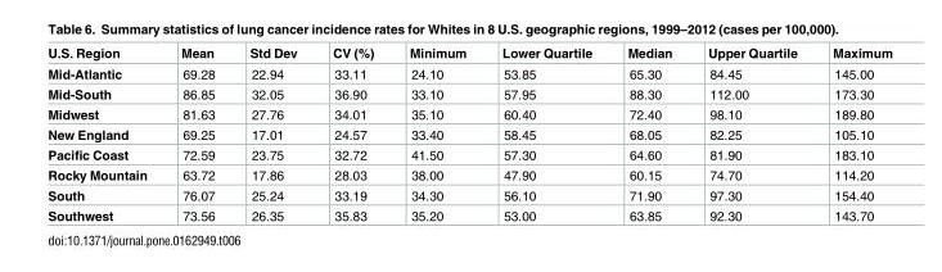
<table><thead><tr><td>U.S. Region</td><td>Mean</td><td>Std Dev</td><td>CV (%)</td><td>Minimum</td><td>Lower Quartile</td><td>Median</td><td>Upper Quartile</td><td>Maximum</td></tr></thead><tbody><tr><td>Mid-Atlantic</td><td>69.28</td><td>22.94</td><td>33.11</td><td>24.10</td><td>53.85</td><td>65.30</td><td>84.45</td><td>145.00</td></tr><tr><td>Mid-South</td><td>86.85</td><td>32.05</td><td>36.90</td><td>33.10</td><td>57.95</td><td>88.30</td><td>112.00</td><td>173.30</td></tr><tr><td>Midwest</td><td>81.63</td><td>27.76</td><td>34.01</td><td>35.10</td><td>60.40</td><td>72.40</td><td>98.10</td><td>189.80</td></tr><tr><td>New England</td><td>69.25</td><td>17.01</td><td>24.57</td><td>33.40</td><td>58.45</td><td>68.05</td><td>82.25</td><td>105.10</td></tr><tr><td>Pacific Coast</td><td>72.59</td><td>23.75</td><td>32.72</td><td>41.50</td><td>57.30</td><td>64.60</td><td>81.90</td><td>183.10</td></tr><tr><td>Rocky Mountain</td><td>63.72</td><td>17.86</td><td>28.03</td><td>38.00</td><td>47.90</td><td>60.15</td><td>74.70</td><td>114.20</td></tr><tr><td>South</td><td>76.07</td><td>25.24</td><td>33.19</td><td>34.30</td><td>56.10</td><td>71.90</td><td>97.30</td><td>154.40</td></tr><tr><td>Southwest</td><td>73.56</td><td>26.35</td><td>35.83</td><td>35.20</td><td>53.00</td><td>63.85</td><td>92.30</td><td>143.70</td></tr></tbody></table>